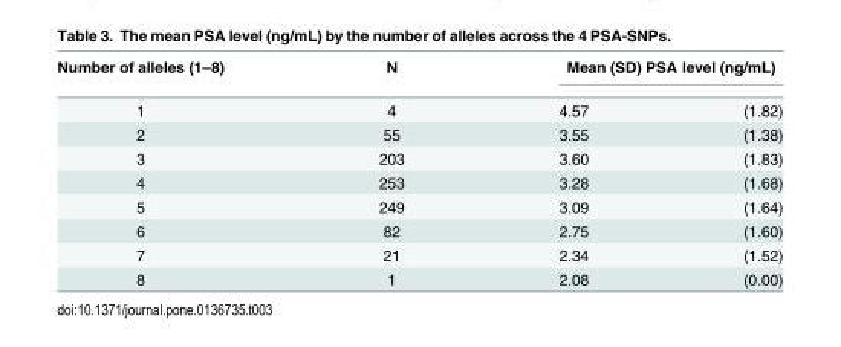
<table><thead><tr><td rowspan="2">Number of alleles (1–8) 1</td><td rowspan="2">N 4</td><td colspan="2">Mean (SD) PSA level (ng/mL)</td></tr><tr><td>4.57</td><td>(1.82)</td></tr></thead><tbody><tr><td>2</td><td>55</td><td>3.55</td><td>(1.38)</td></tr><tr><td>3</td><td>203</td><td>3.60</td><td>(1.83)</td></tr><tr><td>4</td><td>253</td><td>3.28</td><td>(1.68)</td></tr><tr><td>5</td><td>249</td><td>3.09</td><td>(1.64)</td></tr><tr><td>6</td><td>82</td><td>2.75</td><td>(1.60)</td></tr><tr><td>7</td><td>21</td><td>2.34</td><td>(1.52)</td></tr><tr><td>8</td><td>1</td><td>2.08</td><td>(0.00)</td></tr></tbody></table>